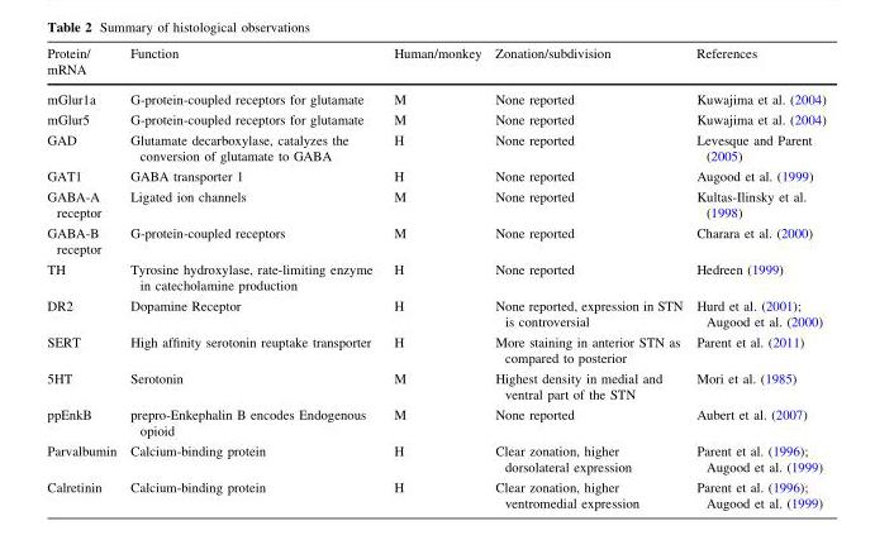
<table><thead><tr><td>Protein/ mRNA</td><td>Function</td><td>Human/monkey</td><td>Zonation/subdivision</td><td>References</td></tr></thead><tbody><tr><td>mGlur1a</td><td>G-protein-coupled receptors for glutamate</td><td>M</td><td>None reported</td><td>Kuwajima et al. (2004)</td></tr><tr><td>mGlur5</td><td>G-protein-coupled receptors for glutamate</td><td>M</td><td>None reported</td><td>Kuwajima et al. (2004)</td></tr><tr><td>GAD</td><td>Glutamate decarboxylase, catalyzes the conversion of glutamate to GABA</td><td>H</td><td>None reported</td><td>Levesque and Parent (2005)</td></tr><tr><td>GAT1</td><td>GABA transporter 1</td><td>H</td><td>None reported</td><td>Augood et al. (1999)</td></tr><tr><td>GABA-A receptor</td><td>Ligated ion channels</td><td>M</td><td>None reported</td><td>Kultas-Ilinsky et al. (1998)</td></tr><tr><td>GABA-B receptor</td><td>G-protein-coupled receptors</td><td>M</td><td>None reported</td><td>Charara et al. (2000)</td></tr><tr><td>TH</td><td>Tyrosine hydroxylase, rate-limiting enzyme in catecholamine production</td><td>H</td><td>None reported</td><td>Hedreen (1999)</td></tr><tr><td>DR2</td><td>Dopamine Receptor</td><td>H</td><td>None reported, expression in STN is controversial</td><td>Hurd et al. (2001); Augood et al. (2000)</td></tr><tr><td>SERT</td><td>High affinity serotonin reuptake transporter</td><td>H</td><td>More staining in anterior STN as compared to posterior</td><td>Parent et al. (2011)</td></tr><tr><td>5HT</td><td>Serotonin</td><td>M</td><td>Highest density in medial and ventral part of the STN</td><td>Mori et al. (1985)</td></tr><tr><td>ppEnkB</td><td>prepro-Enkephalin B encodes Endogenous opioid</td><td>M</td><td>None reported</td><td>Aubert et al. (2007)</td></tr><tr><td>Parvalbumin</td><td>Calcium-binding protein</td><td>H</td><td>Clear zonation, higher dorsolateral expression</td><td>Parent et al. (1996); Augood et al. (1999)</td></tr><tr><td>Calretinin</td><td>Calcium-binding protein</td><td>H</td><td>Clear zonation, higher ventromedial expression</td><td>Parent et al. (1996); Augood et al. (1999)</td></tr></tbody></table>